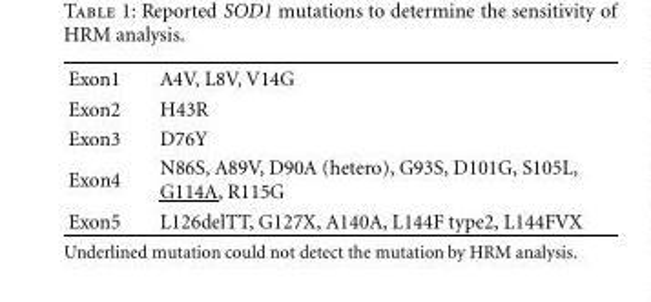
<table><tbody><tr><td>Exon1</td><td>A4V, L8V, V14G</td></tr><tr><td>Exon2</td><td>H43R</td></tr><tr><td>Exon3</td><td>D76Y</td></tr><tr><td>Exon4</td><td>N86S, A89V, D90A (hetero), G93S, D101G, S105L, G114A, R115G</td></tr><tr><td>Exon5</td><td>L126delTT, G127X, A140A, L144F type2, L144FVX</td></tr></tbody></table>